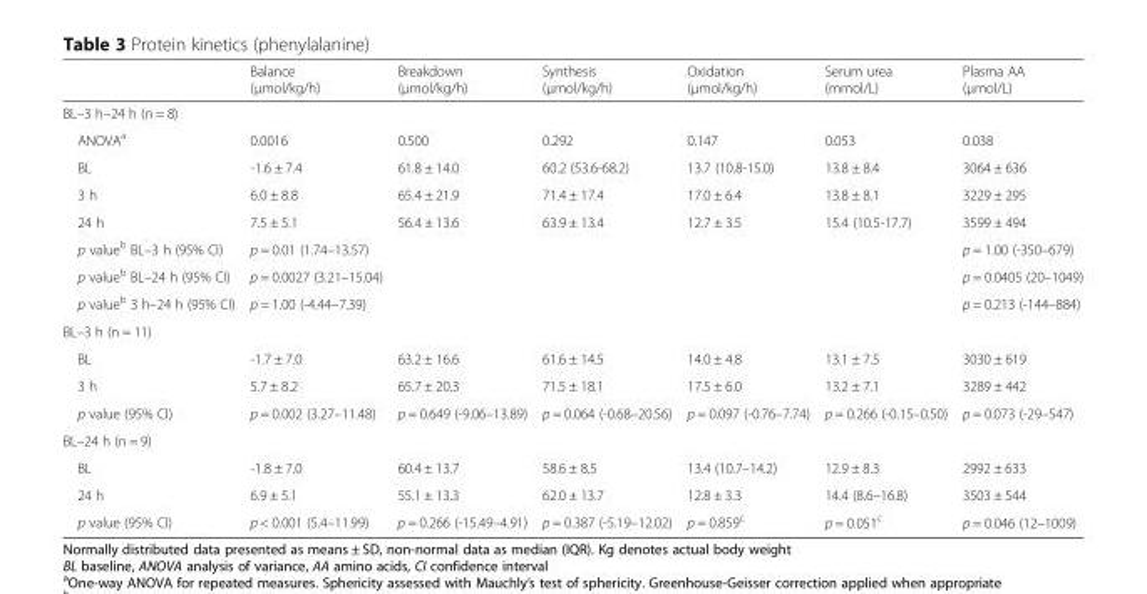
<table><thead><tr><td></td><td>Balance (μmol/kg/h)</td><td>Breakdown (μmol/kg/h)</td><td>Synthesis (μmol/kg/h)</td><td>Oxidation (μmol/kg/h)</td><td>Serum urea (mmol/L)</td><td>Plasma AA (μmol/L)</td></tr></thead><tbody><tr><td colspan="7">BL–3 h–24 h (n = 8)</td></tr><tr><td>ANOVA<sup>a</sup></td><td>0.0016</td><td>0.500</td><td>0.292</td><td>0.147</td><td>0.053</td><td>0.038</td></tr><tr><td>BL</td><td>-1.6 ± 7.4</td><td>61.8 ± 14.0</td><td>60.2 (53.6-68.2)</td><td>13.7 (10.8-15.0)</td><td>13.8 ± 8.4</td><td>3064 ± 636</td></tr><tr><td>3 h</td><td>6.0 ± 8.8</td><td>65.4 ± 21.9</td><td>71.4 ± 17.4</td><td>17.0 ± 6.4</td><td>13.8 ± 8.1</td><td>3229 ± 295</td></tr><tr><td>24 h</td><td>7.5 ± 5.1</td><td>56.4 ± 13.6</td><td>63.9 ± 13.4</td><td>12.7 ± 3.5</td><td>15.4 (10.5-17.7)</td><td>3599 ± 494</td></tr><tr><td>p value<sup>b</sup> BL–3 h (95% CI)</td><td>p = 0.01 (1.74–13.57)</td><td></td><td></td><td></td><td></td><td>p = 1.00 (-350–679)</td></tr><tr><td>p value<sup>b</sup> BL–24 h (95% CI)</td><td>p = 0.0027 (3.21–15.04)</td><td></td><td></td><td></td><td></td><td>p = 0.0405 (20–1049)</td></tr><tr><td>p value<sup>b</sup> 3 h–24 h (95% CI)</td><td>p = 1.00 (-4.44–7.39)</td><td></td><td></td><td></td><td></td><td>p = 0.213 (-144–884)</td></tr><tr><td colspan="7">BL–3 h (n = 11)</td></tr><tr><td>BL</td><td>-1.7 ± 7.0</td><td>63.2 ± 16.6</td><td>61.6 ± 14.5</td><td>14.0 ± 4.8</td><td>13.1 ± 7.5</td><td>3030 ± 619</td></tr><tr><td>3 h</td><td>5.7 ± 8.2</td><td>65.7 ± 20.3</td><td>71.5 ± 18.1</td><td>17.5 ± 6.0</td><td>13.2 ± 7.1</td><td>3289 ± 442</td></tr><tr><td>p value (95% CI)</td><td>p = 0.002 (3.27–11.48)</td><td>p = 0.649 (-9.06–13.89)</td><td>p = 0.064 (-0.68–20.56)</td><td>p = 0.097 (-0.76–7.74)</td><td>p = 0.266 (-0.15–0.50)</td><td>p = 0.073 (-29–547)</td></tr><tr><td colspan="7">BL–24 h (n = 9)</td></tr><tr><td>BL</td><td>-1.8 ± 7.0</td><td>60.4 ± 13.7</td><td>58.6 ± 8.5</td><td>13.4 (10.7–14.2)</td><td>12.9 ± 8.3</td><td>2992 ± 633</td></tr><tr><td>24 h</td><td>6.9 ± 5.1</td><td>55.1 ± 13.3</td><td>62.0 ± 13.7</td><td>12.8 ± 3.3</td><td>14.4 (8.6–16.8)</td><td>3503 ± 544</td></tr><tr><td>p value (95% CI)</td><td>p &lt; 0.001 (5.4–11.99)</td><td>p = 0.266 (-15.49–4.91)</td><td>p = 0.387 (-5.19–12.02)</td><td>p = 0.859<sup>c</sup></td><td>p = 0.051<sup>c</sup></td><td>p = 0.046 (12–1009)</td></tr></tbody></table>